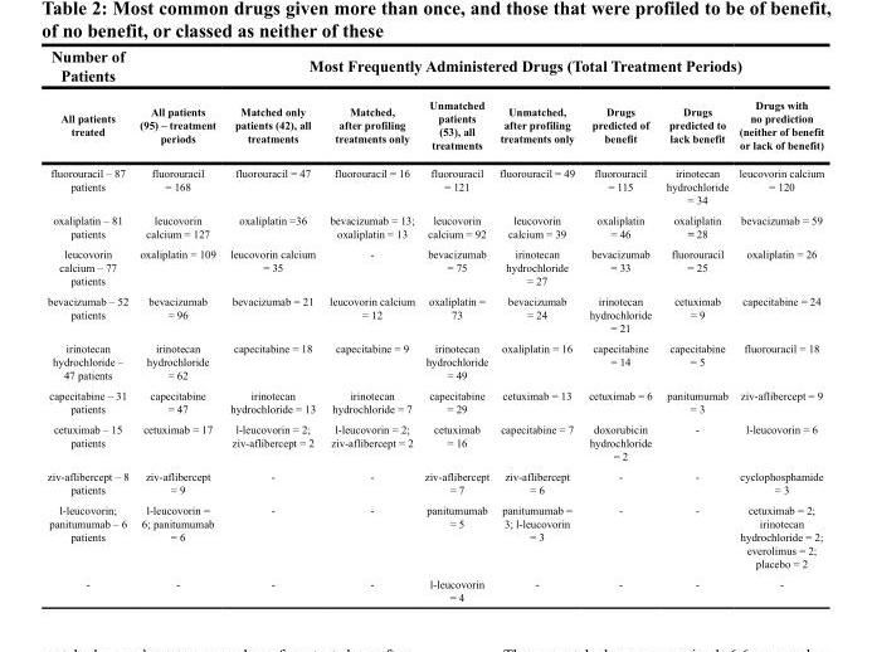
<table><thead><tr><td rowspan="2">Number of Patients All patients treated</td><td colspan="8">Most Frequently Administered Drugs (Total Treatment Periods)</td></tr><tr><td>All patients (95) – treatment periods</td><td>Matched only patients (42), all treatments</td><td>Matched, after profiling treatments only</td><td>Unmatched patients (53), all treatments</td><td>Unmatched, after profiling treatments only</td><td>Drugs predicted of benefit</td><td>Drugs predicted to lack benefit</td><td>Drugs with no prediction (neither of benefit or lack of benefit)</td></tr></thead><tbody><tr><td>fluorouracil – 87 patients</td><td>fluorouracil = 168</td><td>fluorouracil = 47</td><td>fluorouracil = 16</td><td>fluorouracil = 121</td><td>fluorouracil = 49</td><td>fluorouracil = 115</td><td>irinotecan hydrochloride = 34</td><td>leucovorin calcium = 120</td></tr><tr><td>oxaliplatin – 81 patients</td><td>leucovorin calcium = 127</td><td>oxaliplatin =36</td><td>bevacizumab = 13; oxaliplatin = 13</td><td>leucovorin calcium = 92</td><td>leucovorin calcium = 39</td><td>oxaliplatin = 46</td><td>oxaliplatin = 28</td><td>bevacizumab = 59</td></tr><tr><td>leucovorin calcium – 77 patients</td><td>oxaliplatin = 109</td><td>leucovorin calcium = 35</td><td>-</td><td>bevacizumab = 75</td><td>irinotecan hydrochloride = 27</td><td>bevacizumab = 33</td><td>fluorouracil = 25</td><td>oxaliplatin = 26</td></tr><tr><td>bevacizumab – 52 patients</td><td>bevacizumab = 96</td><td>bevacizumab = 21</td><td>leucovorin calcium = 12</td><td>oxaliplatin = 73</td><td>bevacizumab = 24</td><td>irinotecan hydrochloride = 21</td><td>cetuximab = 9</td><td>capecitabine = 24</td></tr><tr><td>irinotecan hydrochloride – 47 patients</td><td>irinotecan hydrochloride = 62</td><td>capecitabine = 18</td><td>capecitabine = 9</td><td>irinotecan hydrochloride = 49</td><td>oxaliplatin = 16</td><td>capecitabine = 14</td><td>capecitabine = 5</td><td>fluorouracil = 18</td></tr><tr><td>capecitabine – 31 patients</td><td>capecitabine = 47</td><td>irinotecan hydrochloride = 13</td><td>irinotecan hydrochloride = 7</td><td>capecitabine = 29</td><td>cetuximab = 13</td><td>cetuximab = 6</td><td>panitumumab = 3</td><td>ziv-aflibercept = 9</td></tr><tr><td>cetuximab – 15 patients</td><td>cetuximab = 17</td><td>l-leucovorin = 2; ziv-aflibercept = 2</td><td>l-leucovorin = 2; ziv-aflibercept = 2</td><td>cetuximab = 16</td><td>capecitabine = 7</td><td>doxorubicin hydrochloride = 2</td><td>-</td><td>l-leucovorin = 6</td></tr><tr><td>ziv-aflibercept – 8 patients</td><td>ziv-aflibercept = 9</td><td>-</td><td>-</td><td>ziv-aflibercept = 7</td><td>ziv-aflibercept = 6</td><td>-</td><td>-</td><td>cyclophosphamide = 3</td></tr><tr><td>l-leucovorin; panitumumab – 6 patients</td><td>l-leucovorin = 6; panitumumab = 6</td><td>-</td><td>-</td><td>panitumumab = 5</td><td>panitumumab = 3; l-leucovorin = 3</td><td>-</td><td>-</td><td>cetuximab = 2; irinotecan hydrochloride = 2; everolimus = 2; placebo = 2</td></tr><tr><td>-</td><td>-</td><td>-</td><td>-</td><td>l-leucovorin = 4</td><td>-</td><td>-</td><td>-</td><td>-</td></tr></tbody></table>